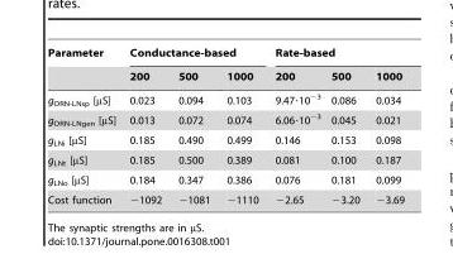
<table><thead><tr><td rowspan="2">Parameter</td><td colspan="3">Conductance-based</td><td colspan="3">Rate-based</td></tr><tr><td>200</td><td>500</td><td>1000</td><td>200</td><td>500</td><td>1000</td></tr></thead><tbody><tr><td>g<sub>ORN-LNsp</sub> [µS]</td><td>0.023</td><td>0.094</td><td>0.103</td><td>9.47·10<sup>−3</sup></td><td>0.086</td><td>0.034</td></tr><tr><td>g<sub>ORN-LNgen</sub> [µS]</td><td>0.013</td><td>0.072</td><td>0.074</td><td>6.06·10<sup>−3</sup></td><td>0.045</td><td>0.021</td></tr><tr><td>g<sub>LNi</sub> [µS]</td><td>0.185</td><td>0.490</td><td>0.499</td><td>0.146</td><td>0.153</td><td>0.098</td></tr><tr><td>g<sub>LNt</sub> [µS]</td><td>0.185</td><td>0.500</td><td>0.389</td><td>0.081</td><td>0.100</td><td>0.187</td></tr><tr><td>g<sub>LNo</sub> [µS]</td><td>0.184</td><td>0.347</td><td>0.386</td><td>0.076</td><td>0.181</td><td>0.099</td></tr><tr><td>Cost function</td><td>−1092</td><td>−1081</td><td>−1110</td><td>−2.65</td><td>−3.20</td><td>−3.69</td></tr></tbody></table>